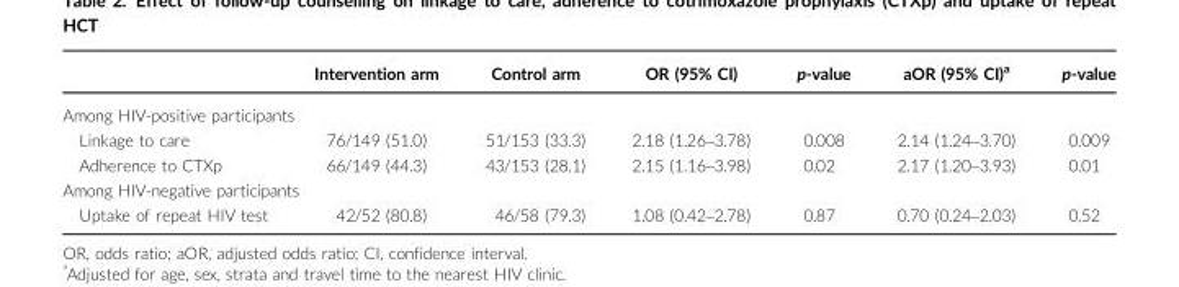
<table><thead><tr><td></td><td>Intervention arm</td><td>Control arm</td><td>OR (95% CI)</td><td>p-value</td><td>aOR (95% CI)<sup>a</sup></td><td>p-value</td></tr></thead><tbody><tr><td colspan="7">Among HIV-positive participants</td></tr><tr><td>Linkage to care</td><td>76/149 (51.0)</td><td>51/153 (33.3)</td><td>2.18 (1.26–3.78)</td><td>0.008</td><td>2.14 (1.24–3.70)</td><td>0.009</td></tr><tr><td>Adherence to CTXp</td><td>66/149 (44.3)</td><td>43/153 (28.1)</td><td>2.15 (1.16–3.98)</td><td>0.02</td><td>2.17 (1.20–3.93)</td><td>0.01</td></tr><tr><td colspan="7">Among HIV-negative participants</td></tr><tr><td>Uptake of repeat HIV test</td><td>42/52 (80.8)</td><td>46/58 (79.3)</td><td>1.08 (0.42–2.78)</td><td>0.87</td><td>0.70 (0.24–2.03)</td><td>0.52</td></tr></tbody></table>